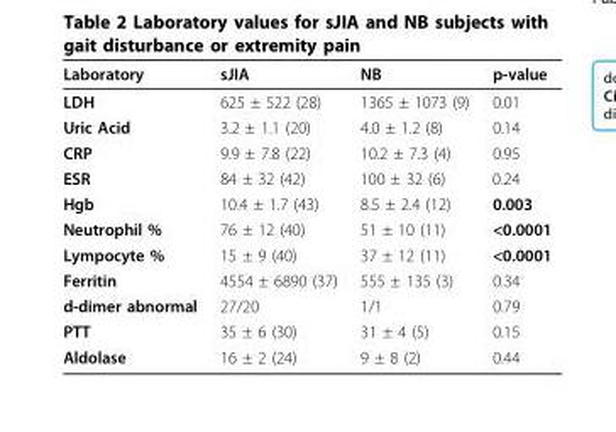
<table><thead><tr><td>Laboratory</td><td>sJIA</td><td>NB</td><td>p-value</td></tr></thead><tbody><tr><td>LDH</td><td>625 ± 522 (28)</td><td>1365 ± 1073 (9)</td><td>0.01</td></tr><tr><td>Uric Acid</td><td>3.2 ± 1.1 (20)</td><td>4.0 ± 1.2 (8)</td><td>0.14</td></tr><tr><td>CRP</td><td>9.9 ± 7.8 (22)</td><td>10.2 ± 7.3 (4)</td><td>0.95</td></tr><tr><td>ESR</td><td>84 ± 32 (42)</td><td>100 ± 32 (6)</td><td>0.24</td></tr><tr><td>Hgb</td><td>10.4 ± 1.7 (43)</td><td>8.5 ± 2.4 (12)</td><td>0.003</td></tr><tr><td>Neutrophil %</td><td>76 ± 12 (40)</td><td>51 ± 10 (11)</td><td>&lt;0.0001</td></tr><tr><td>Lympocyte %</td><td>15 ± 9 (40)</td><td>37 ± 12 (11)</td><td>&lt;0.0001</td></tr><tr><td>Ferritin</td><td>4554 ± 6890 (37)</td><td>555 ± 135 (3)</td><td>0.34</td></tr><tr><td>d-dimer abnormal</td><td>27/20</td><td>1/1</td><td>0.79</td></tr><tr><td>PTT</td><td>35 ± 6 (30)</td><td>31 ± 4 (5)</td><td>0.15</td></tr><tr><td>Aldolase</td><td>16 ± 2 (24)</td><td>9 ± 8 (2)</td><td>0.44</td></tr></tbody></table>